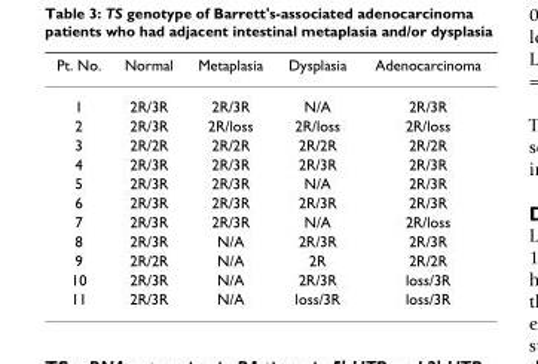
<table><thead><tr><td>Pt. No.</td><td>Normal</td><td>Metaplasia</td><td>Dysplasia</td><td>Adenocarcinoma</td></tr></thead><tbody><tr><td>1</td><td>2R/3R</td><td>2R/3R</td><td>N/A</td><td>2R/3R</td></tr><tr><td>2</td><td>2R/3R</td><td>2R/loss</td><td>2R/loss</td><td>2R/loss</td></tr><tr><td>3</td><td>2R/2R</td><td>2R/2R</td><td>2R/2R</td><td>2R/2R</td></tr><tr><td>4</td><td>2R/3R</td><td>2R/3R</td><td>2R/3R</td><td>2R/3R</td></tr><tr><td>5</td><td>2R/3R</td><td>2R/3R</td><td>N/A</td><td>2R/3R</td></tr><tr><td>6</td><td>2R/3R</td><td>2R/3R</td><td>2R/3R</td><td>2R/3R</td></tr><tr><td>7</td><td>2R/3R</td><td>2R/3R</td><td>N/A</td><td>2R/loss</td></tr><tr><td>8</td><td>2R/3R</td><td>N/A</td><td>2R/3R</td><td>2R/3R</td></tr><tr><td>9</td><td>2R/2R</td><td>N/A</td><td>2R</td><td>2R/2R</td></tr><tr><td>10</td><td>2R/3R</td><td>N/A</td><td>2R/3R</td><td>loss/3R</td></tr><tr><td>11</td><td>2R/3R</td><td>N/A</td><td>loss/3R</td><td>loss/3R</td></tr></tbody></table>